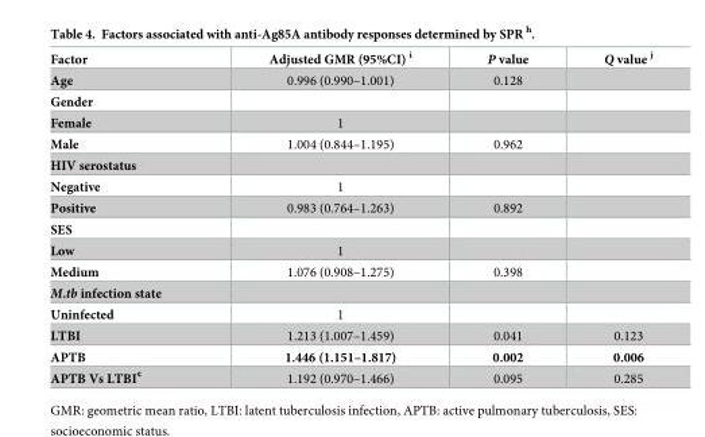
<table><thead><tr><td>Factor</td><td>Adjusted GMR (95%CI) <sup>i</sup></td><td>P value</td><td>Q value <sup>j</sup></td></tr></thead><tbody><tr><td>Age</td><td>0.996 (0.990–1.001)</td><td>0.128</td><td></td></tr><tr><td colspan="4">Gender</td></tr><tr><td>Female</td><td>1</td><td></td><td></td></tr><tr><td>Male</td><td>1.004 (0.844–1.195)</td><td>0.962</td><td></td></tr><tr><td colspan="4">HIV serostatus</td></tr><tr><td>Negative</td><td>1</td><td></td><td></td></tr><tr><td>Positive</td><td>0.983 (0.764–1.263)</td><td>0.892</td><td></td></tr><tr><td colspan="4">SES</td></tr><tr><td>Low</td><td>1</td><td></td><td></td></tr><tr><td>Medium</td><td>1.076 (0.908–1.275)</td><td>0.398</td><td></td></tr><tr><td colspan="4">M.tb infection state</td></tr><tr><td>Uninfected</td><td>1</td><td></td><td></td></tr><tr><td>LTBI</td><td>1.213 (1.007–1.459)</td><td>0.041</td><td>0.123</td></tr><tr><td>APTB</td><td>1.446 (1.151–1.817)</td><td>0.002</td><td>0.006</td></tr><tr><td>APTB Vs LTBI<sup>¢</sup></td><td>1.192 (0.970–1.466)</td><td>0.095</td><td>0.285</td></tr></tbody></table>